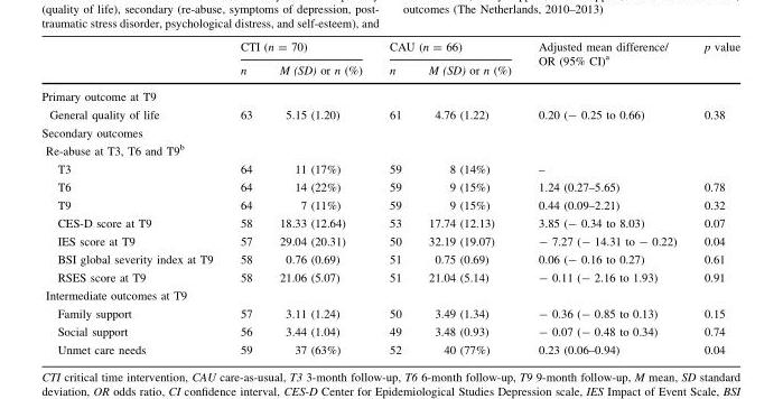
<table><thead><tr><td rowspan="2"></td><td colspan="2">CTI (n = 70)</td><td colspan="2">CAU (n = 66)</td><td rowspan="2">Adjusted mean difference/ OR (95% CI)<sup>a</sup></td><td rowspan="2">p value</td></tr><tr><td>n</td><td>M (SD) or n (%)</td><td>n</td><td>M (SD) or n (%)</td></tr></thead><tbody><tr><td colspan="7">Primary outcome at T9</td></tr><tr><td>General quality of life</td><td>63</td><td>5.15 (1.20)</td><td>61</td><td>4.76 (1.22)</td><td>0.20 (- 0.25 to 0.66)</td><td>0.38</td></tr><tr><td colspan="7">Secondary outcomes</td></tr><tr><td colspan="7">Re-abuse at T3, T6 and T9<sup>b</sup></td></tr><tr><td>T3</td><td>64</td><td>11 (17%)</td><td>59</td><td>8 (14%)</td><td colspan="2">–</td></tr><tr><td>T6</td><td>64</td><td>14 (22%)</td><td>59</td><td>9 (15%)</td><td>1.24 (0.27–5.65)</td><td>0.78</td></tr><tr><td>T9</td><td>64</td><td>7 (11%)</td><td>59</td><td>9 (15%)</td><td>0.44 (0.09–2.21)</td><td>0.32</td></tr><tr><td>CES-D score at T9</td><td>58</td><td>18.33 (12.64)</td><td>53</td><td>17.74 (12.13)</td><td>3.85 (- 0.34 to 8.03)</td><td>0.07</td></tr><tr><td>IES score at T9</td><td>57</td><td>29.04 (20.31)</td><td>50</td><td>32.19 (19.07)</td><td>- 7.27 (- 14.31 to - 0.22)</td><td>0.04</td></tr><tr><td>BSI global severity index at T9</td><td>58</td><td>0.76 (0.69)</td><td>51</td><td>0.75 (0.69)</td><td>0.06 (- 0.16 to 0.27)</td><td>0.61</td></tr><tr><td>RSES score at T9</td><td>58</td><td>21.06 (5.07)</td><td>51</td><td>21.04 (5.14)</td><td>- 0.11 (- 2.16 to 1.93)</td><td>0.91</td></tr><tr><td colspan="7">Intermediate outcomes at T9</td></tr><tr><td>Family support</td><td>57</td><td>3.11 (1.24)</td><td>50</td><td>3.49 (1.34)</td><td>- 0.36 (- 0.85 to 0.13)</td><td>0.15</td></tr><tr><td>Social support</td><td>56</td><td>3.44 (1.04)</td><td>49</td><td>3.48 (0.93)</td><td>- 0.07 (- 0.48 to 0.34)</td><td>0.74</td></tr><tr><td>Unmet care needs</td><td>59</td><td>37 (63%)</td><td>52</td><td>40 (77%)</td><td>0.23 (0.06–0.94)</td><td>0.04</td></tr></tbody></table>